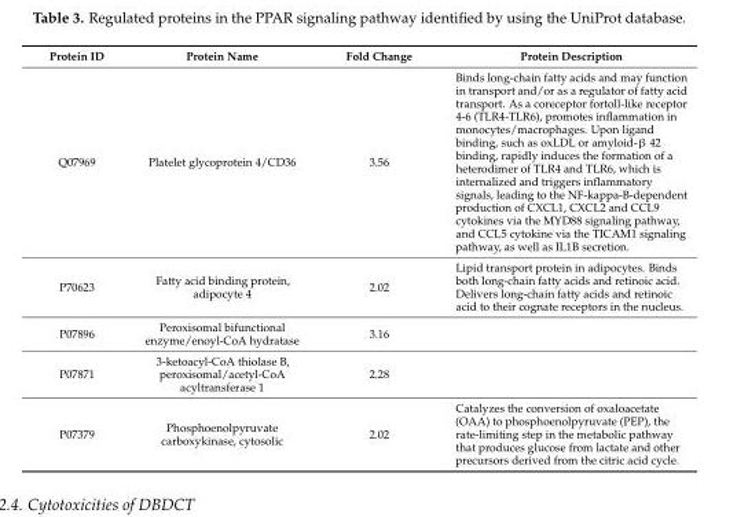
<table><thead><tr><td>Protein ID</td><td>Protein Name</td><td>Fold Change</td><td>Protein Description</td></tr></thead><tbody><tr><td>Q07969</td><td>Platelet glycoprotein 4/CD36</td><td>3.56</td><td>Binds long-chain fatty acids and may function in transport and/or as a regulator of fatty acid transport. As a coreceptor fortoll-like receptor 4-6 (TLR4-TLR6), promotes inflammation in monocytes/macrophages. Upon ligand binding, such as oxLDL or amyloid-β 42 binding, rapidly induces the formation of a heterodimer of TLR4 and TLR6, which is internalized and triggers inflammatory signals, leading to the NF-kappa-B-dependent production of CXCL1, CXCL2 and CCL9 cytokines via the MYD88 signaling pathway, and CCL5 cytokine via the TICAM1 signaling pathway, as well as IL1B secretion.</td></tr><tr><td>P70623</td><td>Fatty acid binding protein, adipocyte 4</td><td>2.02</td><td>Lipid transport protein in adipocytes. Binds both long-chain fatty acids and retinoic acid. Delivers long-chain fatty acids and retinoic acid to their cognate receptors in the nucleus.</td></tr><tr><td>P07896</td><td>Peroxisomal bifunctional enzyme/enoyl-CoA hydratase</td><td>3.16</td><td></td></tr><tr><td>P07871</td><td>3-ketoacyl-CoA thiolase B, peroxisomal/acetyl-CoA acyltransferase 1</td><td>2.28</td><td></td></tr><tr><td>P07379</td><td>Phosphoenolpyruvate carboxykinase, cytosolic</td><td>2.02</td><td>Catalyzes the conversion of oxaloacetate (OAA) to phosphoenolpyruvate (PEP), the rate-limiting step in the metabolic pathway that produces glucose from lactate and other precursors derived from the citric acid cycle.</td></tr></tbody></table>